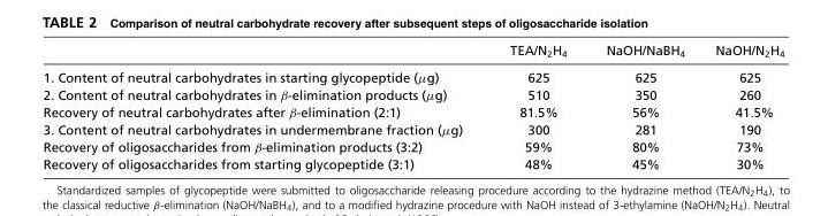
<table><thead><tr><td></td><td>TEA/N<sub>2</sub>H<sub>4</sub></td><td>NaOH/NaBH<sub>4</sub></td><td>NaOH/N<sub>2</sub>H<sub>4</sub></td></tr></thead><tbody><tr><td>1. Content of neutral carbohydrates in starting glycopeptide (µg)</td><td>625</td><td>625</td><td>625</td></tr><tr><td>2. Content of neutral carbohydrates in β-elimination products (µg)</td><td>510</td><td>350</td><td>260</td></tr><tr><td>Recovery of neutral carbohydrates after β-elimination (2:1)</td><td>81.5%</td><td>56%</td><td>41.5%</td></tr><tr><td>3. Content of neutral carbohydrates in undermembrane fraction (µg)</td><td>300</td><td>281</td><td>190</td></tr><tr><td>Recovery of oligosaccharides from β-elimination products (3:2)</td><td>59%</td><td>80%</td><td>73%</td></tr><tr><td>Recovery of oligosaccharides from starting glycopeptide (3:1)</td><td>48%</td><td>45%</td><td>30%</td></tr></tbody></table>